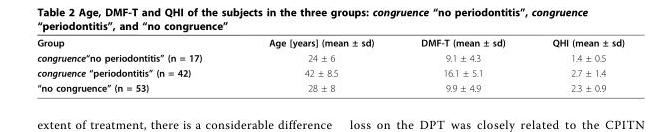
<table><tbody><tr><td>Group</td><td>Age [years] (mean ± sd)</td><td>DMF-T (mean ± sd)</td><td>QHI (mean ± sd)</td></tr><tr><td>congruence“no periodontitis” (n = 17)</td><td>24 ± 6</td><td>9.1 ± 4.3</td><td>1.4 ± 0.5</td></tr><tr><td>congruence “periodontitis” (n = 42)</td><td>42 ± 8.5</td><td>16.1 ± 5.1</td><td>2.7 ± 1.4</td></tr><tr><td>“no congruence” (n = 53)</td><td>28 ± 8</td><td>9.9 ± 4.9</td><td>2.3 ± 0.9</td></tr></tbody></table>